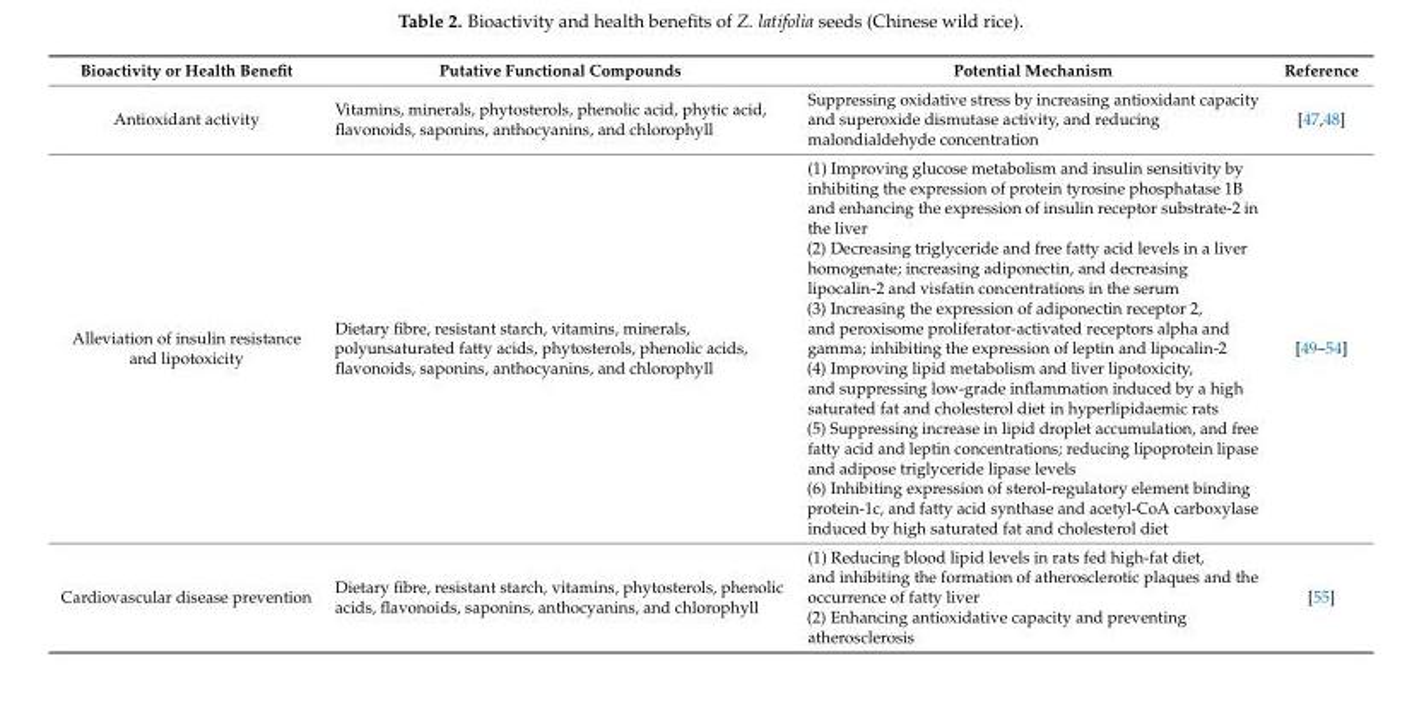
<table><thead><tr><td>Bioactivity or Health Benefit</td><td>Putative Functional Compounds</td><td>Potential Mechanism</td><td>Reference</td></tr></thead><tbody><tr><td>Antioxidant activity</td><td>Vitamins, minerals, phytosterols, phenolic acid, phytic acid, flavonoids, saponins, anthocyanins, and chlorophyll</td><td>Suppressing oxidative stress by increasing antioxidant capacity and superoxide dismutase activity, and reducing malondialdehyde concentration</td><td>[47,48]</td></tr><tr><td>Alleviation of insulin resistance and lipotoxicity</td><td>Dietary fibre, resistant starch, vitamins, minerals, polyunsaturated fatty acids, phytosterols, phenolic acids, flavonoids, saponins, anthocyanins, and chlorophyll</td><td>(1) Improving glucose metabolism and insulin sensitivity by inhibiting the expression of protein tyrosine phosphatase 1B and enhancing the expression of insulin receptor substrate-2 in the liver (2) Decreasing triglyceride and free fatty acid levels in a liver homogenate; increasing adiponectin, and decreasing lipocalin-2 and visfatin concentrations in the serum (3) Increasing the expression of adiponectin receptor 2, and peroxisome proliferator-activated receptors alpha and gamma; inhibiting the expression of leptin and lipocalin-2 (4) Improving lipid metabolism and liver lipotoxicity, and suppressing low-grade inflammation induced by a high saturated fat and cholesterol diet in hyperlipidaemic rats (5) Suppressing increase in lipid droplet accumulation, and free fatty acid and leptin concentrations; reducing lipoprotein lipase and adipose triglyceride lipase levels (6) Inhibiting expression of sterol-regulatory element binding protein-1c, and fatty acid synthase and acetyl-CoA carboxylase induced by high saturated fat and cholesterol diet</td><td>[49–54]</td></tr><tr><td>Cardiovascular disease prevention</td><td>Dietary fibre, resistant starch, vitamins, phytosterols, phenolic acids, flavonoids, saponins, anthocyanins, and chlorophyll</td><td>(1) Reducing blood lipid levels in rats fed high-fat diet, and inhibiting the formation of atherosclerotic plaques and the occurrence of fatty liver (2) Enhancing antioxidative capacity and preventing atherosclerosis</td><td>[55]</td></tr></tbody></table>